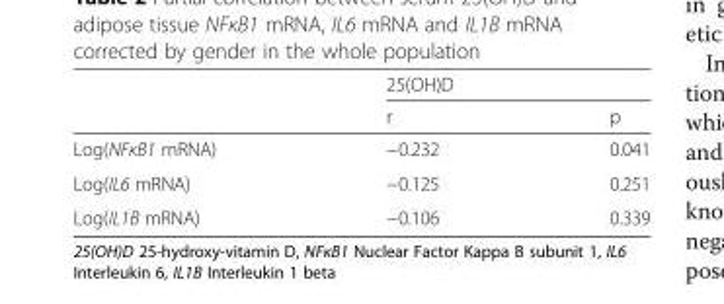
<table><thead><tr><td rowspan="2"></td><td colspan="2">25(OH)D</td></tr><tr><td>r</td><td>p</td></tr></thead><tbody><tr><td>Log(NFκB1 mRNA)</td><td>−0.232</td><td>0.041</td></tr><tr><td>Log(IL6 mRNA)</td><td>−0.125</td><td>0.251</td></tr><tr><td>Log(IL1B mRNA)</td><td>−0.106</td><td>0.339</td></tr></tbody></table>